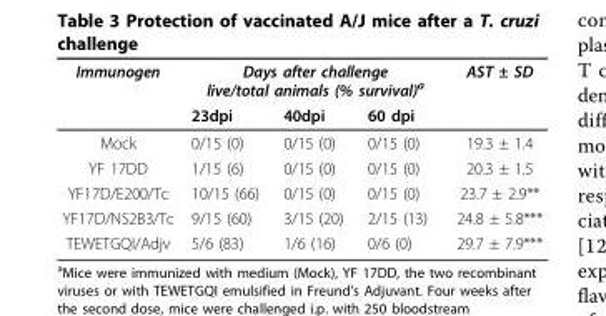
<table><thead><tr><td rowspan="2">Immunogen</td><td colspan="3">Days after challenge live/total animals (% survival)<sup>a</sup></td><td rowspan="2">AST ± SD</td></tr><tr><td>23dpi</td><td>40dpi</td><td>60 dpi</td></tr></thead><tbody><tr><td>Mock</td><td>0/15 (0)</td><td>0/15 (0)</td><td>0/15 (0)</td><td>19.3 ± 1.4</td></tr><tr><td>YF 17DD</td><td>1/15 (6)</td><td>0/15 (0)</td><td>0/15 (0)</td><td>20.3 ± 1.5</td></tr><tr><td>YF17D/E200/Tc</td><td>10/15 (66)</td><td>0/15 (0)</td><td>0/15 (0)</td><td>23.7 ± 2.9**</td></tr><tr><td>YF17D/NS2B3/Tc</td><td>9/15 (60)</td><td>3/15 (20)</td><td>2/15 (13)</td><td>24.8 ± 5.8***</td></tr><tr><td>TEWETGQI/Adjv</td><td>5/6 (83)</td><td>1/6 (16)</td><td>0/6 (0)</td><td>29.7 ± 7.9***</td></tr></tbody></table>